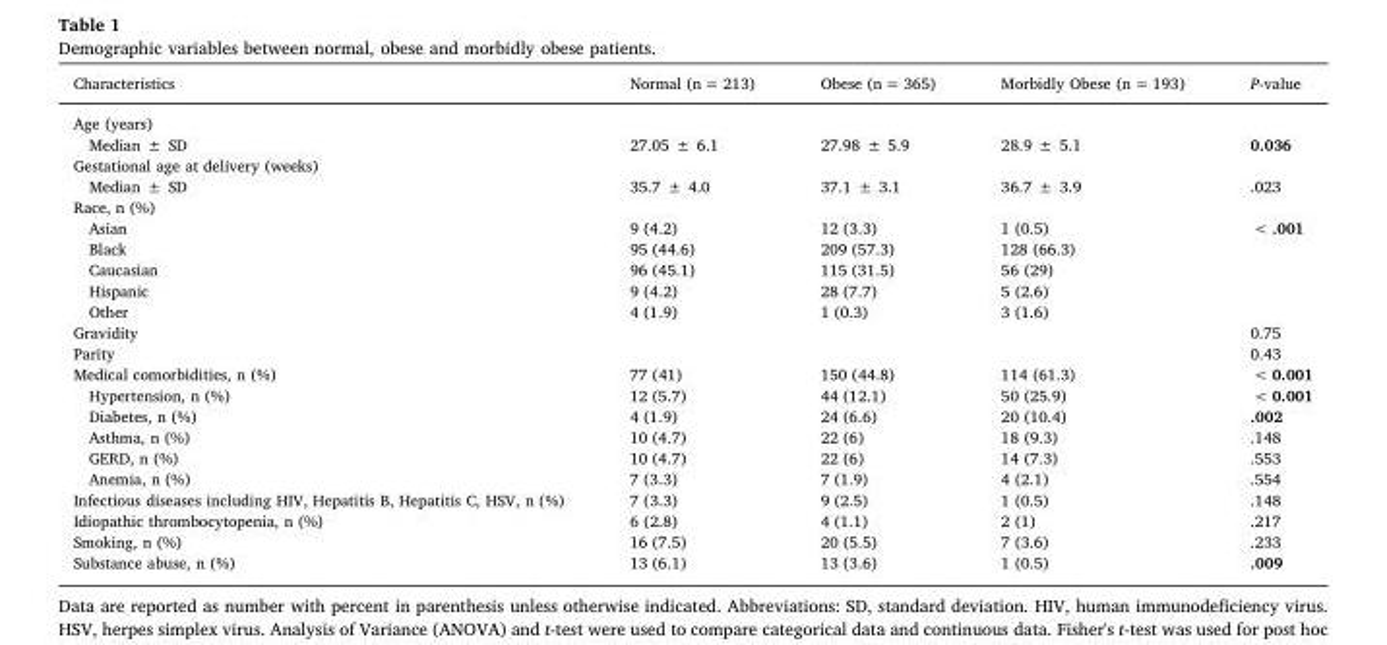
<table><thead><tr><td>Characteristics</td><td>Normal (n = 213)</td><td>Obese (n = 365)</td><td>Morbidly Obese (n = 193)</td><td>P-value</td></tr></thead><tbody><tr><td colspan="5">Age (years)</td></tr><tr><td>Median ± SD</td><td>27.05 ± 6.1</td><td>27.98 ± 5.9</td><td>28.9 ± 5.1</td><td>0.036</td></tr><tr><td colspan="5">Gestational age at delivery (weeks)</td></tr><tr><td>Median ± SD</td><td>35.7 ± 4.0</td><td>37.1 ± 3.1</td><td>36.7 ± 3.9</td><td>.023</td></tr><tr><td colspan="5">Race, n (%)</td></tr><tr><td>Asian</td><td>9 (4.2)</td><td>12 (3.3)</td><td>1 (0.5)</td><td rowspan="5">&lt; .001</td></tr><tr><td>Black</td><td>95 (44.6)</td><td>209 (57.3)</td><td>128 (66.3)</td></tr><tr><td>Caucasian</td><td>96 (45.1)</td><td>115 (31.5)</td><td>56 (29)</td></tr><tr><td>Hispanic</td><td>9 (4.2)</td><td>28 (7.7)</td><td>5 (2.6)</td></tr><tr><td>Other</td><td>4 (1.9)</td><td>1 (0.3)</td><td>3 (1.6)</td></tr><tr><td>Gravidity</td><td></td><td></td><td></td><td>0.75</td></tr><tr><td>Parity</td><td></td><td></td><td></td><td>0.43</td></tr><tr><td>Medical comorbidities, n (%)</td><td>77 (41)</td><td>150 (44.8)</td><td>114 (61.3)</td><td>&lt; 0.001</td></tr><tr><td>Hypertension, n (%)</td><td>12 (5.7)</td><td>44 (12.1)</td><td>50 (25.9)</td><td>&lt; 0.001</td></tr><tr><td>Diabetes, n (%)</td><td>4 (1.9)</td><td>24 (6.6)</td><td>20 (10.4)</td><td>.002</td></tr><tr><td>Asthma, n (%)</td><td>10 (4.7)</td><td>22 (6)</td><td>18 (9.3)</td><td>.148</td></tr><tr><td>GERD, n (%)</td><td>10 (4.7)</td><td>22 (6)</td><td>14 (7.3)</td><td>.553</td></tr><tr><td>Anemia, n (%)</td><td>7 (3.3)</td><td>7 (1.9)</td><td>4 (2.1)</td><td>.554</td></tr><tr><td>Infectious diseases including HIV, Hepatitis B, Hepatitis C, HSV, n (%)</td><td>7 (3.3)</td><td>9 (2.5)</td><td>1 (0.5)</td><td>.148</td></tr><tr><td>Idiopathic thrombocytopenia, n (%)</td><td>6 (2.8)</td><td>4 (1.1)</td><td>2 (1)</td><td>.217</td></tr><tr><td>Smoking, n (%)</td><td>16 (7.5)</td><td>20 (5.5)</td><td>7 (3.6)</td><td>.233</td></tr><tr><td>Substance abuse, n (%)</td><td>13 (6.1)</td><td>13 (3.6)</td><td>1 (0.5)</td><td>.009</td></tr></tbody></table>